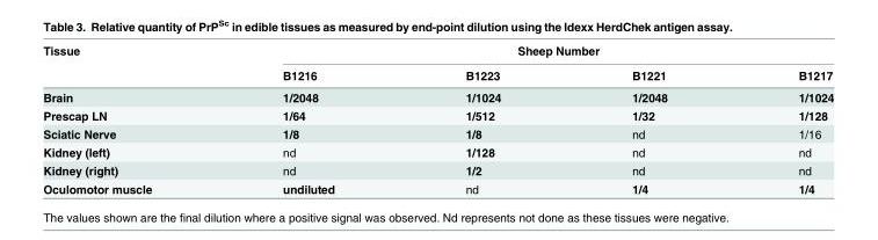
<table><thead><tr><td rowspan="2">Tissue</td><td colspan="4">Sheep Number</td></tr><tr><td>B1216</td><td>B1223</td><td>B1221</td><td>B1217</td></tr></thead><tbody><tr><td>Brain</td><td>1/2048</td><td>1/1024</td><td>1/2048</td><td>1/1024</td></tr><tr><td>Prescap LN</td><td>1/64</td><td>1/512</td><td>1/32</td><td>1/128</td></tr><tr><td>Sciatic Nerve</td><td>1/8</td><td>1/8</td><td>nd</td><td>1/16</td></tr><tr><td>Kidney (left)</td><td>nd</td><td>1/128</td><td>nd</td><td>nd</td></tr><tr><td>Kidney (right)</td><td>nd</td><td>1/2</td><td>nd</td><td>nd</td></tr><tr><td>Oculomotor muscle</td><td>undiluted</td><td>nd</td><td>1/4</td><td>1/4</td></tr></tbody></table>